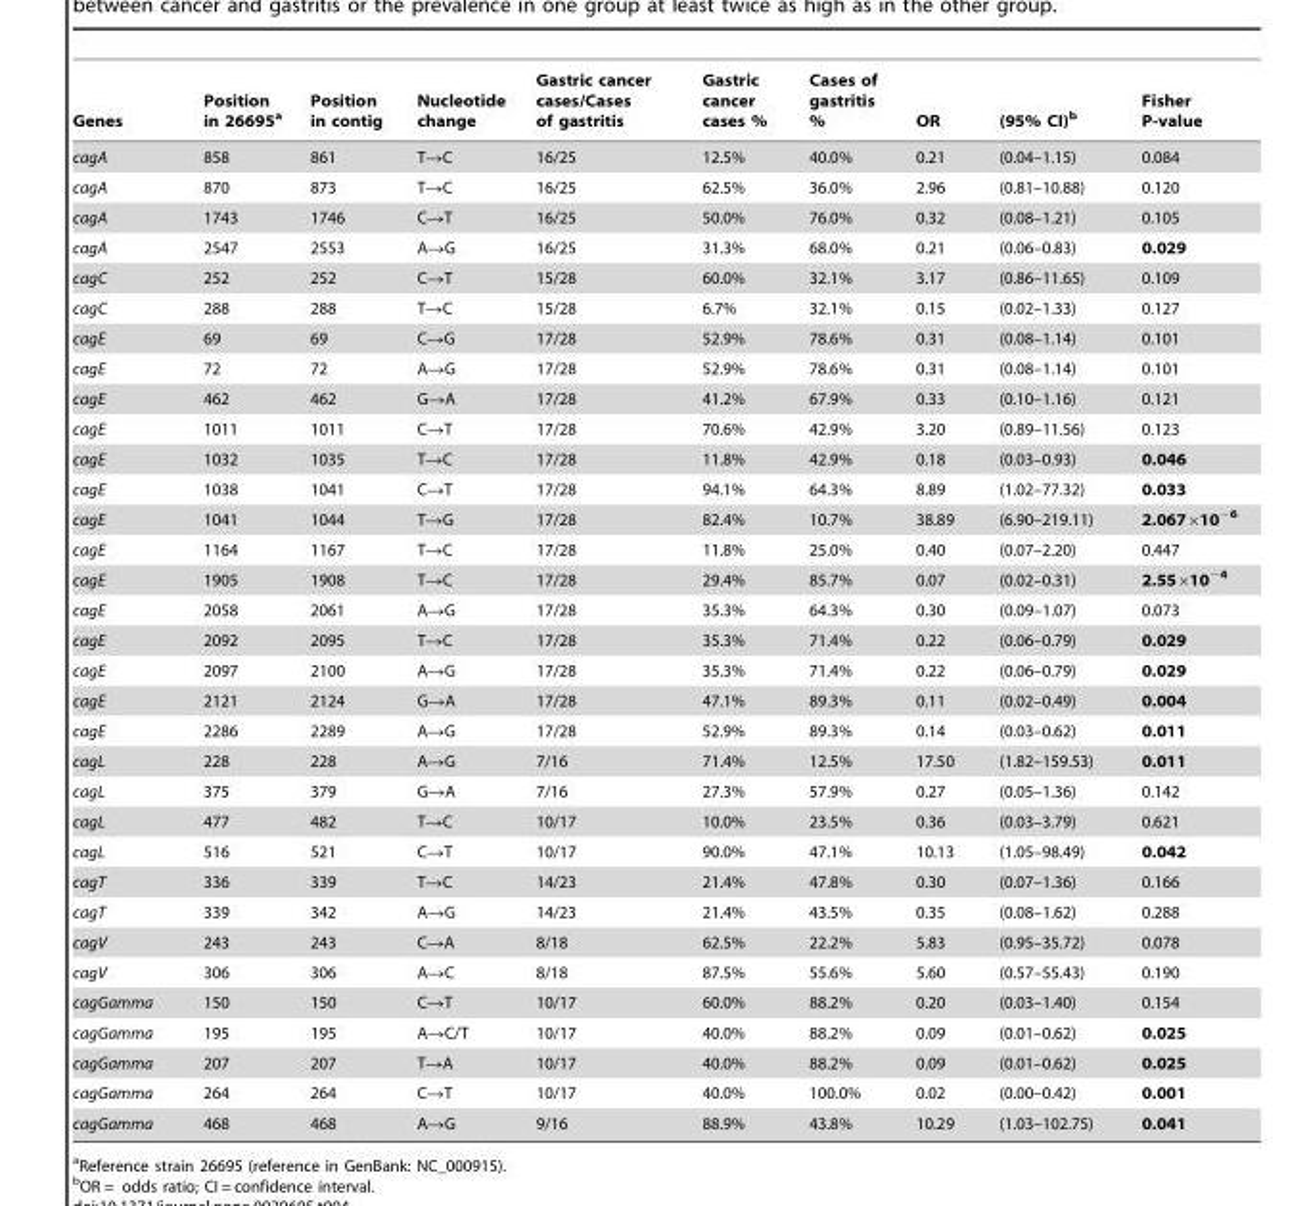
<table><thead><tr><td>Genes</td><td>Position in 26695<sup>a</sup></td><td>Position in contig</td><td>Nucleotide change</td><td>Gastric cancer cases/Cases of gastritis</td><td>Gastric cancer cases %</td><td>Cases of gastritis %</td><td>OR</td><td>(95% CI)<sup>b</sup></td><td>Fisher P-value</td></tr></thead><tbody><tr><td>cagA</td><td>858</td><td>861</td><td>T→C</td><td>16/25</td><td>12.5%</td><td>40.0%</td><td>0.21</td><td>(0.04–1.15)</td><td>0.084</td></tr><tr><td>cagA</td><td>870</td><td>873</td><td>T→C</td><td>16/25</td><td>62.5%</td><td>36.0%</td><td>2.96</td><td>(0.81–10.88)</td><td>0.120</td></tr><tr><td>cagA</td><td>1743</td><td>1746</td><td>C→T</td><td>16/25</td><td>50.0%</td><td>76.0%</td><td>0.32</td><td>(0.08–1.21)</td><td>0.105</td></tr><tr><td>cagA</td><td>2547</td><td>2553</td><td>A→G</td><td>16/25</td><td>31.3%</td><td>68.0%</td><td>0.21</td><td>(0.06–0.83)</td><td>0.029</td></tr><tr><td>cagC</td><td>252</td><td>252</td><td>C→T</td><td>15/28</td><td>60.0%</td><td>32.1%</td><td>3.17</td><td>(0.86–11.65)</td><td>0.109</td></tr><tr><td>cagC</td><td>288</td><td>288</td><td>T→C</td><td>15/28</td><td>6.7%</td><td>32.1%</td><td>0.15</td><td>(0.02–1.33)</td><td>0.127</td></tr><tr><td>cagE</td><td>69</td><td>69</td><td>C→G</td><td>17/28</td><td>52.9%</td><td>78.6%</td><td>0.31</td><td>(0.08–1.14)</td><td>0.101</td></tr><tr><td>cagE</td><td>72</td><td>72</td><td>A→G</td><td>17/28</td><td>52.9%</td><td>78.6%</td><td>0.31</td><td>(0.08–1.14)</td><td>0.101</td></tr><tr><td>cagE</td><td>462</td><td>462</td><td>G→A</td><td>17/28</td><td>41.2%</td><td>67.9%</td><td>0.33</td><td>(0.10–1.16)</td><td>0.121</td></tr><tr><td>cagE</td><td>1011</td><td>1011</td><td>C→T</td><td>17/28</td><td>70.6%</td><td>42.9%</td><td>3.20</td><td>(0.89–11.56)</td><td>0.123</td></tr><tr><td>cagE</td><td>1032</td><td>1035</td><td>T→C</td><td>17/28</td><td>11.8%</td><td>42.9%</td><td>0.18</td><td>(0.03–0.93)</td><td>0.046</td></tr><tr><td>cagE</td><td>1038</td><td>1041</td><td>C→T</td><td>17/28</td><td>94.1%</td><td>64.3%</td><td>8.89</td><td>(1.02–77.32)</td><td>0.033</td></tr><tr><td>cagE</td><td>1041</td><td>1044</td><td>T→G</td><td>17/28</td><td>82.4%</td><td>10.7%</td><td>38.89</td><td>(6.90–219.11)</td><td>2.067×10<sup>−6</sup></td></tr><tr><td>cagE</td><td>1164</td><td>1167</td><td>T→C</td><td>17/28</td><td>11.8%</td><td>25.0%</td><td>0.40</td><td>(0.07–2.20)</td><td>0.447</td></tr><tr><td>cagE</td><td>1905</td><td>1908</td><td>T→C</td><td>17/28</td><td>29.4%</td><td>85.7%</td><td>0.07</td><td>(0.02–0.31)</td><td>2.55×10<sup>−4</sup></td></tr><tr><td>cagE</td><td>2058</td><td>2061</td><td>A→G</td><td>17/28</td><td>35.3%</td><td>64.3%</td><td>0.30</td><td>(0.09–1.07)</td><td>0.073</td></tr><tr><td>cagE</td><td>2092</td><td>2095</td><td>T→C</td><td>17/28</td><td>35.3%</td><td>71.4%</td><td>0.22</td><td>(0.06–0.79)</td><td>0.029</td></tr><tr><td>cagE</td><td>2097</td><td>2100</td><td>A→G</td><td>17/28</td><td>35.3%</td><td>71.4%</td><td>0.22</td><td>(0.06–0.79)</td><td>0.029</td></tr><tr><td>cagE</td><td>2121</td><td>2124</td><td>G→A</td><td>17/28</td><td>47.1%</td><td>89.3%</td><td>0.11</td><td>(0.02–0.49)</td><td>0.004</td></tr><tr><td>cagE</td><td>2286</td><td>2289</td><td>A→G</td><td>17/28</td><td>52.9%</td><td>89.3%</td><td>0.14</td><td>(0.03–0.62)</td><td>0.011</td></tr><tr><td>cagL</td><td>228</td><td>228</td><td>A→G</td><td>7/16</td><td>71.4%</td><td>12.5%</td><td>17.50</td><td>(1.82–159.53)</td><td>0.011</td></tr><tr><td>cagL</td><td>375</td><td>379</td><td>G→A</td><td>7/16</td><td>27.3%</td><td>57.9%</td><td>0.27</td><td>(0.05–1.36)</td><td>0.142</td></tr><tr><td>cagL</td><td>477</td><td>482</td><td>T→C</td><td>10/17</td><td>10.0%</td><td>23.5%</td><td>0.36</td><td>(0.03–3.79)</td><td>0.621</td></tr><tr><td>cagL</td><td>516</td><td>521</td><td>C→T</td><td>10/17</td><td>90.0%</td><td>47.1%</td><td>10.13</td><td>(1.05–98.49)</td><td>0.042</td></tr><tr><td>cagT</td><td>336</td><td>339</td><td>T→C</td><td>14/23</td><td>21.4%</td><td>47.8%</td><td>0.30</td><td>(0.07–1.36)</td><td>0.166</td></tr><tr><td>cagT</td><td>339</td><td>342</td><td>A→G</td><td>14/23</td><td>21.4%</td><td>43.5%</td><td>0.35</td><td>(0.08–1.62)</td><td>0.288</td></tr><tr><td>cagV</td><td>243</td><td>243</td><td>C→A</td><td>8/18</td><td>62.5%</td><td>22.2%</td><td>5.83</td><td>(0.95–35.72)</td><td>0.078</td></tr><tr><td>cagV</td><td>306</td><td>306</td><td>A→C</td><td>8/18</td><td>87.5%</td><td>55.6%</td><td>5.60</td><td>(0.57–55.43)</td><td>0.190</td></tr><tr><td>cagGamma</td><td>150</td><td>150</td><td>C→T</td><td>10/17</td><td>60.0%</td><td>88.2%</td><td>0.20</td><td>(0.03–1.40)</td><td>0.154</td></tr><tr><td>cagGamma</td><td>195</td><td>195</td><td>A→C/T</td><td>10/17</td><td>40.0%</td><td>88.2%</td><td>0.09</td><td>(0.01–0.62)</td><td>0.025</td></tr><tr><td>cagGamma</td><td>207</td><td>207</td><td>T→A</td><td>10/17</td><td>40.0%</td><td>88.2%</td><td>0.09</td><td>(0.01–0.62)</td><td>0.025</td></tr><tr><td>cagGamma</td><td>264</td><td>264</td><td>C→T</td><td>10/17</td><td>40.0%</td><td>100.0%</td><td>0.02</td><td>(0.00–0.42)</td><td>0.001</td></tr><tr><td>cagGamma</td><td>468</td><td>468</td><td>A→G</td><td>9/16</td><td>88.9%</td><td>43.8%</td><td>10.29</td><td>(1.03–102.75)</td><td>0.041</td></tr></tbody></table>